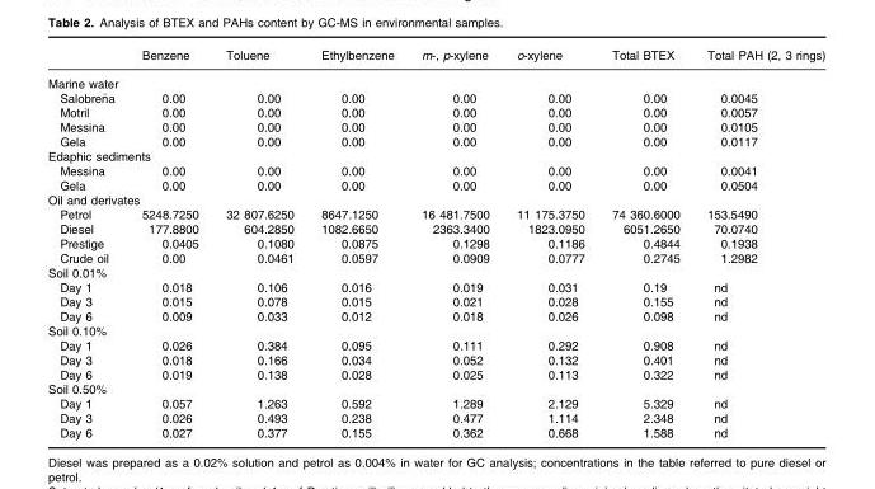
<table><thead><tr><td></td><td>Benzene</td><td>Toluene</td><td>Ethylbenzene</td><td>m-, p-xylene</td><td>o-xylene</td><td>Total BTEX</td><td>Total PAH (2, 3 rings)</td></tr></thead><tbody><tr><td colspan="8">Marine water</td></tr><tr><td>Salobre~na</td><td>0.00</td><td>0.00</td><td>0.00</td><td>0.00</td><td>0.00</td><td>0.00</td><td>0.0045</td></tr><tr><td>Motril</td><td>0.00</td><td>0.00</td><td>0.00</td><td>0.00</td><td>0.00</td><td>0.00</td><td>0.0057</td></tr><tr><td>Messina</td><td>0.00</td><td>0.00</td><td>0.00</td><td>0.00</td><td>0.00</td><td>0.00</td><td>0.0105</td></tr><tr><td>Gela</td><td>0.00</td><td>0.00</td><td>0.00</td><td>0.00</td><td>0.00</td><td>0.00</td><td>0.0117</td></tr><tr><td colspan="8">Edaphic sediments</td></tr><tr><td>Messina</td><td>0.00</td><td>0.00</td><td>0.00</td><td>0.00</td><td>0.00</td><td>0.00</td><td>0.0041</td></tr><tr><td>Gela</td><td>0.00</td><td>0.00</td><td>0.00</td><td>0.00</td><td>0.00</td><td>0.00</td><td>0.0504</td></tr><tr><td colspan="8">Oil and derivates</td></tr><tr><td>Petrol</td><td>5248.7250</td><td>32 807.6250</td><td>8647.1250</td><td>16 481.7500</td><td>11 175.3750</td><td>74 360.6000</td><td>153.5490</td></tr><tr><td>Diesel</td><td>177.8800</td><td>604.2850</td><td>1082.6650</td><td>2363.3400</td><td>1823.0950</td><td>6051.2650</td><td>70.0740</td></tr><tr><td>Prestige</td><td>0.0405</td><td>0.1080</td><td>0.0875</td><td>0.1298</td><td>0.1186</td><td>0.4844</td><td>0.1938</td></tr><tr><td>Crude oil</td><td>0.00</td><td>0.0461</td><td>0.0597</td><td>0.0909</td><td>0.0777</td><td>0.2745</td><td>1.2982</td></tr><tr><td colspan="8">Soil 0.01%</td></tr><tr><td>Day 1</td><td>0.018</td><td>0.106</td><td>0.016</td><td>0.019</td><td>0.031</td><td>0.19</td><td>nd</td></tr><tr><td>Day 3</td><td>0.015</td><td>0.078</td><td>0.015</td><td>0.021</td><td>0.028</td><td>0.155</td><td>nd</td></tr><tr><td>Day 6</td><td>0.009</td><td>0.033</td><td>0.012</td><td>0.018</td><td>0.026</td><td>0.098</td><td>nd</td></tr><tr><td colspan="8">Soil 0.10%</td></tr><tr><td>Day 1</td><td>0.026</td><td>0.384</td><td>0.095</td><td>0.111</td><td>0.292</td><td>0.908</td><td>nd</td></tr><tr><td>Day 3</td><td>0.018</td><td>0.166</td><td>0.034</td><td>0.052</td><td>0.132</td><td>0.401</td><td>nd</td></tr><tr><td>Day 6</td><td>0.019</td><td>0.138</td><td>0.028</td><td>0.025</td><td>0.113</td><td>0.322</td><td>nd</td></tr><tr><td colspan="8">Soil 0.50%</td></tr><tr><td>Day 1</td><td>0.057</td><td>1.263</td><td>0.592</td><td>1.289</td><td>2.129</td><td>5.329</td><td>nd</td></tr><tr><td>Day 3</td><td>0.026</td><td>0.493</td><td>0.238</td><td>0.477</td><td>1.114</td><td>2.348</td><td>nd</td></tr><tr><td>Day 6</td><td>0.027</td><td>0.377</td><td>0.155</td><td>0.362</td><td>0.668</td><td>1.588</td><td>nd</td></tr></tbody></table>